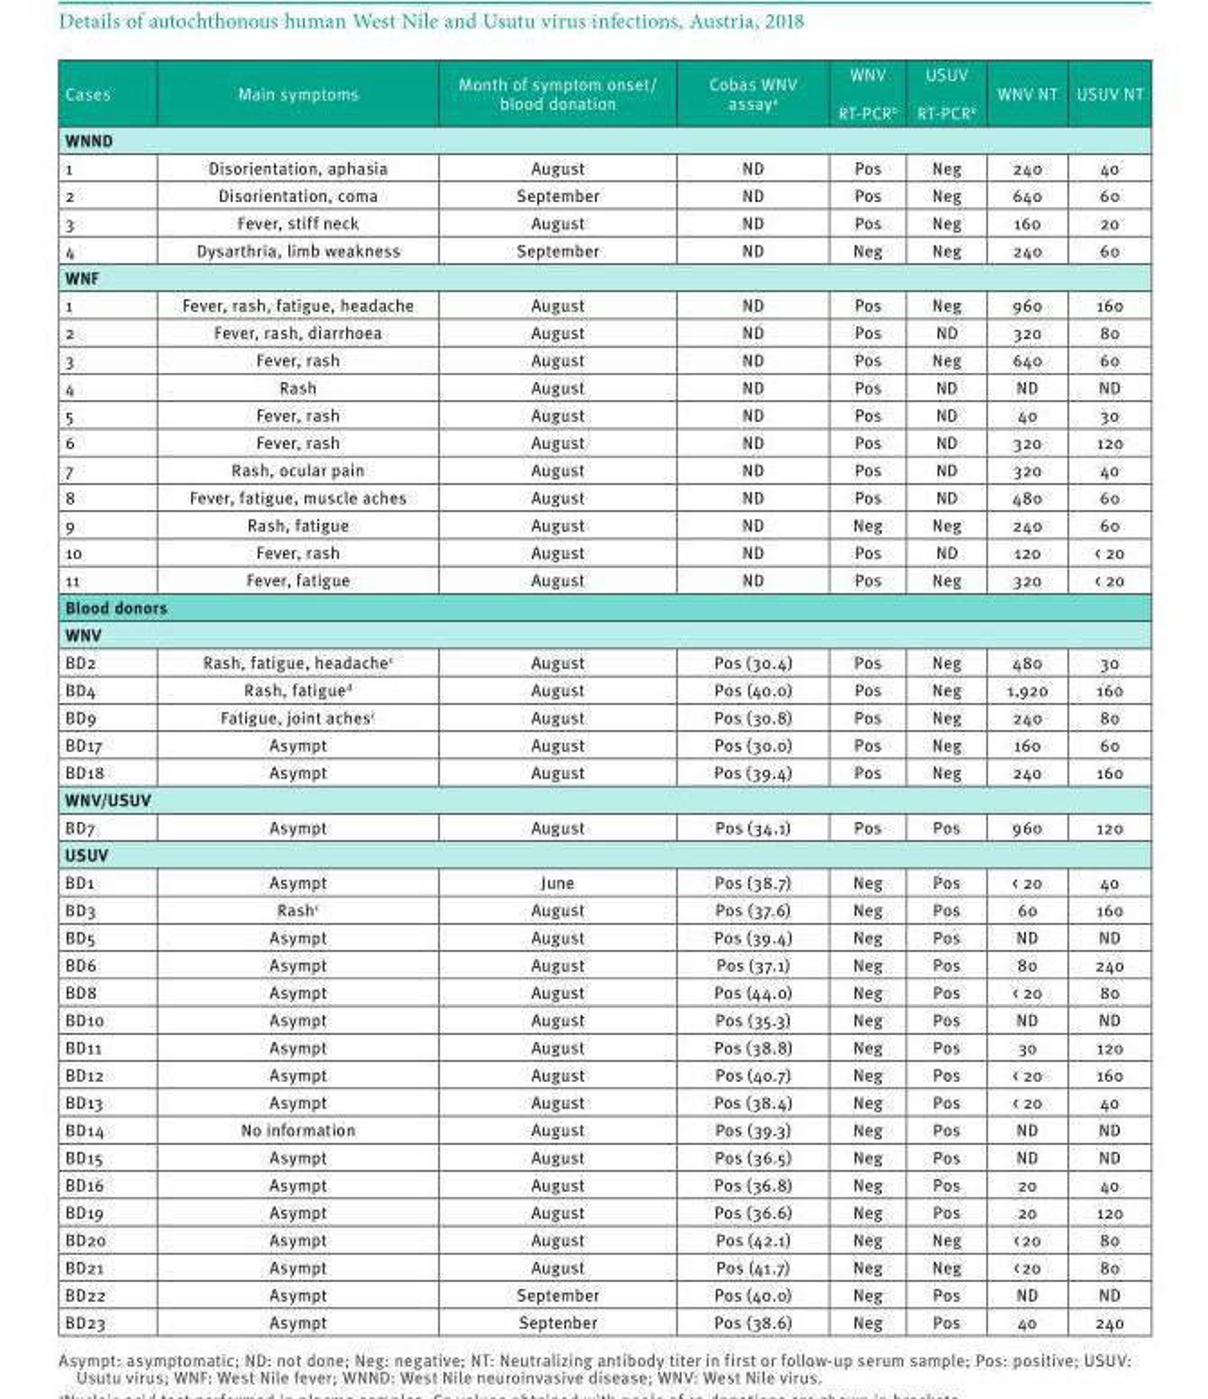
<table><thead><tr><td>Cases</td><td>Main symptoms</td><td>Month of symptom onset/ blood donation</td><td>Cobas WNV assay<sup>a</sup></td><td>WNV RT-PCR<sup>b</sup></td><td>USUV RT-PCR<sup>b</sup></td><td>WNV NT</td><td>USUV NT</td></tr></thead><tbody><tr><td colspan="8">WNND</td></tr><tr><td>1</td><td>Disorientation, aphasia</td><td>August</td><td>ND</td><td>Pos</td><td>Neg</td><td>240</td><td>40</td></tr><tr><td>2</td><td>Disorientation, coma</td><td>September</td><td>ND</td><td>Pos</td><td>Neg</td><td>640</td><td>60</td></tr><tr><td>3</td><td>Fever, stiff neck</td><td>August</td><td>ND</td><td>Pos</td><td>Neg</td><td>160</td><td>20</td></tr><tr><td>4</td><td>Dysarthria, limb weakness</td><td>September</td><td>ND</td><td>Neg</td><td>Neg</td><td>240</td><td>60</td></tr><tr><td colspan="8">WNF</td></tr><tr><td>1</td><td>Fever, rash, fatigue, headache</td><td>August</td><td>ND</td><td>Pos</td><td>Neg</td><td>960</td><td>160</td></tr><tr><td>2</td><td>Fever, rash, diarrhoea</td><td>August</td><td>ND</td><td>Pos</td><td>ND</td><td>320</td><td>80</td></tr><tr><td>3</td><td>Fever, rash</td><td>August</td><td>ND</td><td>Pos</td><td>Neg</td><td>640</td><td>60</td></tr><tr><td>4</td><td>Rash</td><td>August</td><td>ND</td><td>Pos</td><td>ND</td><td>ND</td><td>ND</td></tr><tr><td>5</td><td>Fever, rash</td><td>August</td><td>ND</td><td>Pos</td><td>ND</td><td>40</td><td>30</td></tr><tr><td>6</td><td>Fever, rash</td><td>August</td><td>ND</td><td>Pos</td><td>ND</td><td>320</td><td>120</td></tr><tr><td>7</td><td>Rash, ocular pain</td><td>August</td><td>ND</td><td>Pos</td><td>ND</td><td>320</td><td>40</td></tr><tr><td>8</td><td>Fever, fatigue, muscle aches</td><td>August</td><td>ND</td><td>Pos</td><td>ND</td><td>480</td><td>60</td></tr><tr><td>9</td><td>Rash, fatigue</td><td>August</td><td>ND</td><td>Neg</td><td>Neg</td><td>240</td><td>60</td></tr><tr><td>10</td><td>Fever, rash</td><td>August</td><td>ND</td><td>Pos</td><td>ND</td><td>120</td><td>&lt; 20</td></tr><tr><td>11</td><td>Fever, fatigue</td><td>August</td><td>ND</td><td>Pos</td><td>Neg</td><td>320</td><td>&lt; 20</td></tr><tr><td colspan="8">Blood donors</td></tr><tr><td colspan="8">WNV</td></tr><tr><td>BD2</td><td>Rash, fatigue, headache<sup>c</sup></td><td>August</td><td>Pos (30.4)</td><td>Pos</td><td>Neg</td><td>480</td><td>30</td></tr><tr><td>BD4</td><td>Rash, fatigue<sup>d</sup></td><td>August</td><td>Pos (40.0)</td><td>Pos</td><td>Neg</td><td>1,920</td><td>160</td></tr><tr><td>BD9</td><td>Fatigue, joint aches<sup>c</sup></td><td>August</td><td>Pos (30.8)</td><td>Pos</td><td>Neg</td><td>240</td><td>80</td></tr><tr><td>BD17</td><td>Asympt</td><td>August</td><td>Pos (30.0)</td><td>Pos</td><td>Neg</td><td>160</td><td>60</td></tr><tr><td>BD18</td><td>Asympt</td><td>August</td><td>Pos (39.4)</td><td>Pos</td><td>Neg</td><td>240</td><td>160</td></tr><tr><td colspan="8">WNV/USUV</td></tr><tr><td>BD7</td><td>Asympt</td><td>August</td><td>Pos (34.1)</td><td>Pos</td><td>Pos</td><td>960</td><td>120</td></tr><tr><td colspan="8">USUV</td></tr><tr><td>BD1</td><td>Asympt</td><td>June</td><td>Pos (38.7)</td><td>Neg</td><td>Pos</td><td>&lt; 20</td><td>40</td></tr><tr><td>BD3</td><td>Rash<sup>c</sup></td><td>August</td><td>Pos (37.6)</td><td>Neg</td><td>Pos</td><td>60</td><td>160</td></tr><tr><td>BD5</td><td>Asympt</td><td>August</td><td>Pos (39.4)</td><td>Neg</td><td>Pos</td><td>ND</td><td>ND</td></tr><tr><td>BD6</td><td>Asympt</td><td>August</td><td>Pos (37.1)</td><td>Neg</td><td>Pos</td><td>80</td><td>240</td></tr><tr><td>BD8</td><td>Asympt</td><td>August</td><td>Pos (44.0)</td><td>Neg</td><td>Pos</td><td>&lt; 20</td><td>80</td></tr><tr><td>BD10</td><td>Asympt</td><td>August</td><td>Pos (35.3)</td><td>Neg</td><td>Pos</td><td>ND</td><td>ND</td></tr><tr><td>BD11</td><td>Asympt</td><td>August</td><td>Pos (38.8)</td><td>Neg</td><td>Pos</td><td>30</td><td>120</td></tr><tr><td>BD12</td><td>Asympt</td><td>August</td><td>Pos (40.7)</td><td>Neg</td><td>Pos</td><td>&lt; 20</td><td>160</td></tr><tr><td>BD13</td><td>Asympt</td><td>August</td><td>Pos (38.4)</td><td>Neg</td><td>Pos</td><td>&lt; 20</td><td>40</td></tr><tr><td>BD14</td><td>No information</td><td>August</td><td>Pos (39.3)</td><td>Neg</td><td>Pos</td><td>ND</td><td>ND</td></tr><tr><td>BD15</td><td>Asympt</td><td>August</td><td>Pos (36.5)</td><td>Neg</td><td>Pos</td><td>ND</td><td>ND</td></tr><tr><td>BD16</td><td>Asympt</td><td>August</td><td>Pos (36.8)</td><td>Neg</td><td>Pos</td><td>20</td><td>40</td></tr><tr><td>BD19</td><td>Asympt</td><td>August</td><td>Pos (36.6)</td><td>Neg</td><td>Pos</td><td>20</td><td>120</td></tr><tr><td>BD20</td><td>Asympt</td><td>August</td><td>Pos (42.1)</td><td>Neg</td><td>Neg</td><td>&lt; 20</td><td>80</td></tr><tr><td>BD21</td><td>Asympt</td><td>August</td><td>Pos (41.7)</td><td>Neg</td><td>Neg</td><td>&lt; 20</td><td>80</td></tr><tr><td>BD22</td><td>Asympt</td><td>September</td><td>Pos (40.0)</td><td>Neg</td><td>Pos</td><td>ND</td><td>ND</td></tr><tr><td>BD23</td><td>Asympt</td><td>Septenber</td><td>Pos (38.6)</td><td>Neg</td><td>Pos</td><td>40</td><td>240</td></tr></tbody></table>